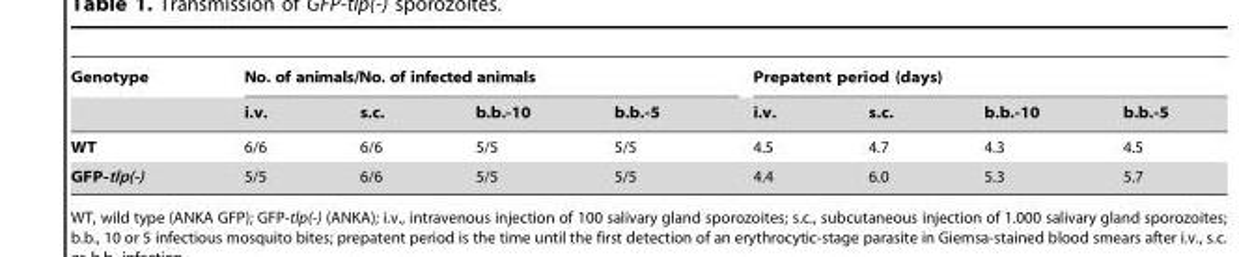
<table><thead><tr><td rowspan="2">Genotype</td><td colspan="4">No. of animals/No. of infected animals</td><td colspan="4">Prepatent period (days)</td></tr><tr><td>i.v.</td><td>s.c.</td><td>b.b.-10</td><td>b.b.-5</td><td>i.v.</td><td>s.c.</td><td>b.b.-10</td><td>b.b.-5</td></tr></thead><tbody><tr><td>WT</td><td>6/6</td><td>6/6</td><td>5/5</td><td>5/5</td><td>4.5</td><td>4.7</td><td>4.3</td><td>4.5</td></tr><tr><td>GFP-tlp(-)</td><td>5/5</td><td>6/6</td><td>5/5</td><td>5/5</td><td>4.4</td><td>6.0</td><td>5.3</td><td>5.7</td></tr></tbody></table>